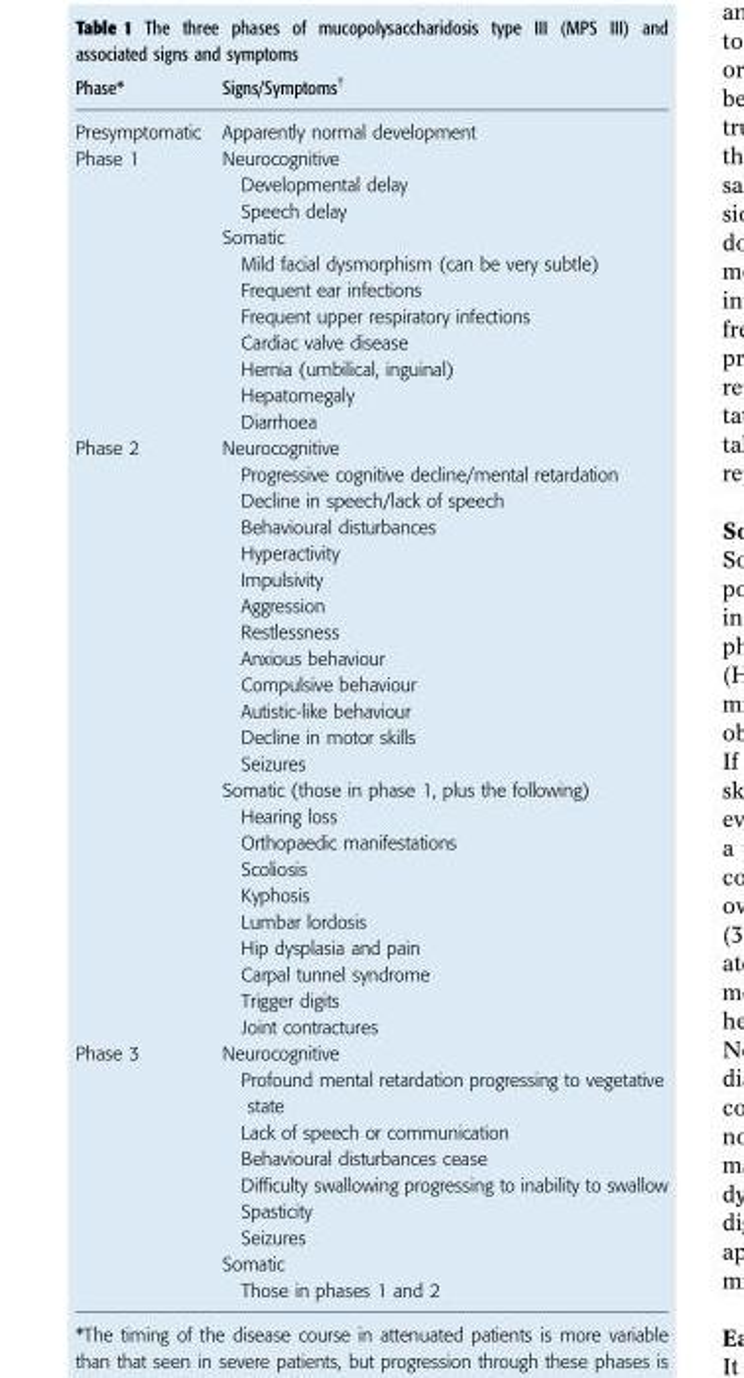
<table><thead><tr><td>Phase*</td><td>Signs/Symptoms†</td></tr></thead><tbody><tr><td>Presymptomatic</td><td>Apparently normal development</td></tr><tr><td rowspan="11">Phase 1</td><td>Neurocognitive</td></tr><tr><td>Developmental delay</td></tr><tr><td>Speech delay</td></tr><tr><td>Somatic</td></tr><tr><td>Mild facial dysmorphism (can be very subtle)</td></tr><tr><td>Frequent ear infections</td></tr><tr><td>Frequent upper respiratory infections</td></tr><tr><td>Cardiac valve disease</td></tr><tr><td>Hernia (umbilical, inguinal)</td></tr><tr><td>Hepatomegaly</td></tr><tr><td>Diarrhoea</td></tr><tr><td rowspan="23">Phase 2</td><td>Neurocognitive</td></tr><tr><td>Progressive cognitive decline/mental retardation</td></tr><tr><td>Decline in speech/lack of speech</td></tr><tr><td>Behavioural disturbances</td></tr><tr><td>Hyperactivity</td></tr><tr><td>Impulsivity</td></tr><tr><td>Aggression</td></tr><tr><td>Restlessness</td></tr><tr><td>Anxious behaviour</td></tr><tr><td>Compulsive behaviour</td></tr><tr><td>Autistic-like behaviour</td></tr><tr><td>Decline in motor skills</td></tr><tr><td>Seizures</td></tr><tr><td>Somatic (those in phase 1, plus the following)</td></tr><tr><td>Hearing loss</td></tr><tr><td>Orthopaedic manifestations</td></tr><tr><td>Scoliosis</td></tr><tr><td>Kyphosis</td></tr><tr><td>Lumbar lordosis</td></tr><tr><td>Hip dysplasia and pain</td></tr><tr><td>Carpal tunnel syndrome</td></tr><tr><td>Trigger digits</td></tr><tr><td>Joint contractures</td></tr><tr><td rowspan="9">Phase 3</td><td>Neurocognitive</td></tr><tr><td>Profound mental retardation progressing to vegetative state</td></tr><tr><td>Lack of speech or communication</td></tr><tr><td>Behavioural disturbances cease</td></tr><tr><td>Difficulty swallowing progressing to inability to swallow</td></tr><tr><td>Spasticity</td></tr><tr><td>Seizures</td></tr><tr><td>Somatic</td></tr><tr><td>Those in phases 1 and 2</td></tr></tbody></table>